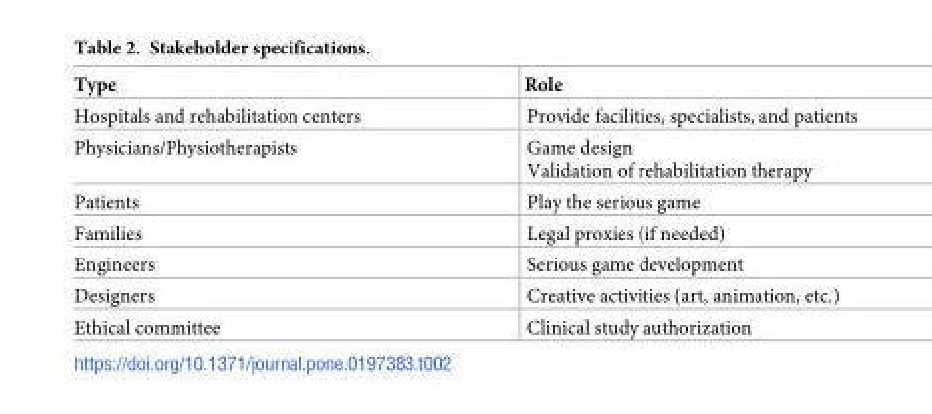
<table><thead><tr><td>Type</td><td>Role</td></tr></thead><tbody><tr><td>Hospitals and rehabilitation centers</td><td>Provide facilities, specialists, and patients</td></tr><tr><td>Physicians/Physiotherapists</td><td>Game design Validation of rehabilitation therapy</td></tr><tr><td>Patients</td><td>Play the serious game</td></tr><tr><td>Families</td><td>Legal proxies (if needed)</td></tr><tr><td>Engineers</td><td>Serious game development</td></tr><tr><td>Designers</td><td>Creative activities (art, animation, etc.)</td></tr><tr><td>Ethical committee</td><td>Clinical study authorization</td></tr></tbody></table>